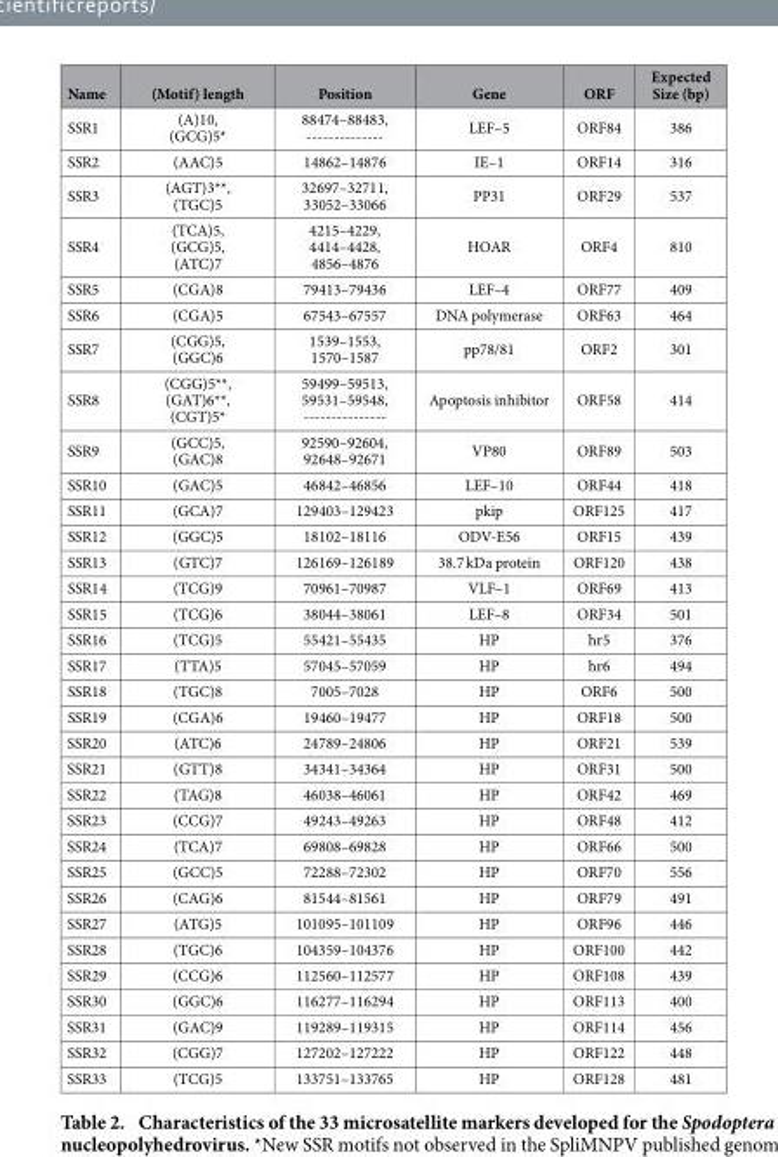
<table><thead><tr><td>Name</td><td>(Motif) length</td><td>Position</td><td>Gene</td><td>ORF</td><td>Expected Size (bp)</td></tr></thead><tbody><tr><td>SSR1</td><td>(A)10, (GCG)5*</td><td>88474–88483, --------------</td><td>LEF–5</td><td>ORF84</td><td>386</td></tr><tr><td>SSR2</td><td>(AAC)5</td><td>14862–14876</td><td>IE–1</td><td>ORF14</td><td>316</td></tr><tr><td>SSR3</td><td>(AGT)3**, (TGC)5</td><td>32697–32711, 33052–33066</td><td>PP31</td><td>ORF29</td><td>537</td></tr><tr><td>SSR4</td><td>(TCA)5, (GCG)5, (ATC)7</td><td>4215–4229, 4414–4428, 4856–4876</td><td>HOAR</td><td>ORF4</td><td>810</td></tr><tr><td>SSR5</td><td>(CGA)8</td><td>79413–79436</td><td>LEF–4</td><td>ORF77</td><td>409</td></tr><tr><td>SSR6</td><td>(CGA)5</td><td>67543–67557</td><td>DNA polymerase</td><td>ORF63</td><td>464</td></tr><tr><td>SSR7</td><td>(CGG)5, (GGC)6</td><td>1539–1553, 1570–1587</td><td>pp78/81</td><td>ORF2</td><td>301</td></tr><tr><td>SSR8</td><td>(CGG)5**, (GAT)6**, (CGT)5*</td><td>59499–59513, 59531–59548, ---------------</td><td>Apoptosis inhibitor</td><td>ORF58</td><td>414</td></tr><tr><td>SSR9</td><td>(GCC)5, (GAC)8</td><td>92590–92604, 92648–92671</td><td>VP80</td><td>ORF89</td><td>503</td></tr><tr><td>SSR10</td><td>(GAC)5</td><td>46842–46856</td><td>LEF–10</td><td>ORF44</td><td>418</td></tr><tr><td>SSR11</td><td>(GCA)7</td><td>129403–129423</td><td>pkip</td><td>ORF125</td><td>417</td></tr><tr><td>SSR12</td><td>(GGC)5</td><td>18102–18116</td><td>ODV-E56</td><td>ORF15</td><td>439</td></tr><tr><td>SSR13</td><td>(GTC)7</td><td>126169–126189</td><td>38.7 kDa protein</td><td>ORF120</td><td>438</td></tr><tr><td>SSR14</td><td>(TCG)9</td><td>70961–70987</td><td>VLF–1</td><td>ORF69</td><td>413</td></tr><tr><td>SSR15</td><td>(TCG)6</td><td>38044–38061</td><td>LEF–8</td><td>ORF34</td><td>501</td></tr><tr><td>SSR16</td><td>(TCG)5</td><td>55421–55435</td><td>HP</td><td>hr5</td><td>376</td></tr><tr><td>SSR17</td><td>(TTA)5</td><td>57045–57059</td><td>HP</td><td>hr6</td><td>494</td></tr><tr><td>SSR18</td><td>(TGC)8</td><td>7005–7028</td><td>HP</td><td>ORF6</td><td>500</td></tr><tr><td>SSR19</td><td>(CGA)6</td><td>19460–19477</td><td>HP</td><td>ORF18</td><td>500</td></tr><tr><td>SSR20</td><td>(ATC)6</td><td>24789–24806</td><td>HP</td><td>ORF21</td><td>539</td></tr><tr><td>SSR21</td><td>(GTT)8</td><td>34341–34364</td><td>HP</td><td>ORF31</td><td>500</td></tr><tr><td>SSR22</td><td>(TAG)8</td><td>46038–46061</td><td>HP</td><td>ORF42</td><td>469</td></tr><tr><td>SSR23</td><td>(CCG)7</td><td>49243–49263</td><td>HP</td><td>ORF48</td><td>412</td></tr><tr><td>SSR24</td><td>(TCA)7</td><td>69808–69828</td><td>HP</td><td>ORF66</td><td>500</td></tr><tr><td>SSR25</td><td>(GCC)5</td><td>72288–72302</td><td>HP</td><td>ORF70</td><td>556</td></tr><tr><td>SSR26</td><td>(CAG)6</td><td>81544–81561</td><td>HP</td><td>ORF79</td><td>491</td></tr><tr><td>SSR27</td><td>(ATG)5</td><td>101095–101109</td><td>HP</td><td>ORF96</td><td>446</td></tr><tr><td>SSR28</td><td>(TGC)6</td><td>104359–104376</td><td>HP</td><td>ORF100</td><td>442</td></tr><tr><td>SSR29</td><td>(CCG)6</td><td>112560–112577</td><td>HP</td><td>ORF108</td><td>439</td></tr><tr><td>SSR30</td><td>(GGC)6</td><td>116277–116294</td><td>HP</td><td>ORF113</td><td>400</td></tr><tr><td>SSR31</td><td>(GAC)9</td><td>119289–119315</td><td>HP</td><td>ORF114</td><td>456</td></tr><tr><td>SSR32</td><td>(CGG)7</td><td>127202–127222</td><td>HP</td><td>ORF122</td><td>448</td></tr><tr><td>SSR33</td><td>(TCG)5</td><td>133751–133765</td><td>HP</td><td>ORF128</td><td>481</td></tr></tbody></table>